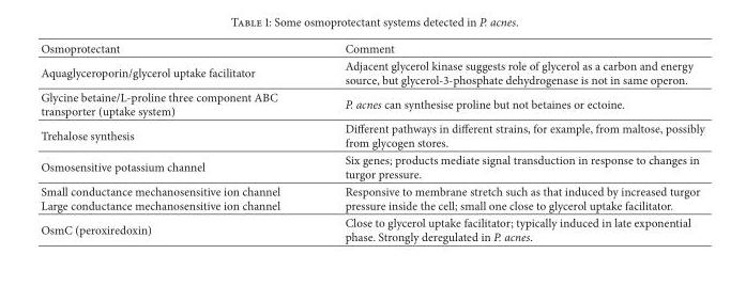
<table><thead><tr><td>Osmoprotectant</td><td>Comment</td></tr></thead><tbody><tr><td>Aquaglyceroporin/glycerol uptake facilitator</td><td>Adjacent glycerol kinase suggests role of glycerol as a carbon and energy source, but glycerol-3-phosphate dehydrogenase is not in same operon.</td></tr><tr><td>Glycine betaine/L-proline three component ABC transporter (uptake system)</td><td>P. acnes can synthesise proline but not betaines or ectoine.</td></tr><tr><td>Trehalose synthesis</td><td>Different pathways in different strains, for example, from maltose, possibly from glycogen stores.</td></tr><tr><td>Osmosensitive potassium channel</td><td>Six genes; products mediate signal transduction in response to changes in turgor pressure.</td></tr><tr><td>Small conductance mechanosensitive ion channel Large conductance mechanosensitive ion channel</td><td>Responsive to membrane stretch such as that induced by increased turgor pressure inside the cell; small one close to glycerol uptake facilitator.</td></tr><tr><td>OsmC (peroxiredoxin)</td><td>Close to glycerol uptake facilitator; typically induced in late exponential phase. Strongly deregulated in P. acnes.</td></tr></tbody></table>